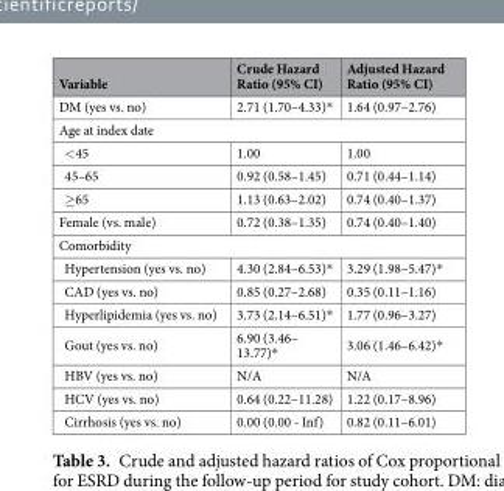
<table><thead><tr><td>Variable</td><td>Crude Hazard Ratio (95% CI)</td><td>Adjusted Hazard Ratio (95% CI)</td></tr></thead><tbody><tr><td>DM (yes vs. no)</td><td>2.71 (1.70–4.33)*</td><td>1.64 (0.97–2.76)</td></tr><tr><td colspan="3">Age at index date</td></tr><tr><td>&lt;45</td><td>1.00</td><td>1.00</td></tr><tr><td>45–65</td><td>0.92 (0.58–1.45)</td><td>0.71 (0.44–1.14)</td></tr><tr><td>≥65</td><td>1.13 (0.63–2.02)</td><td>0.74 (0.40–1.37)</td></tr><tr><td>Female (vs. male)</td><td>0.72 (0.38–1.35)</td><td>0.74 (0.40–1.40)</td></tr><tr><td colspan="3">Comorbidity</td></tr><tr><td>Hypertension (yes vs. no)</td><td>4.30 (2.84–6.53)*</td><td>3.29 (1.98–5.47)*</td></tr><tr><td>CAD (yes vs. no)</td><td>0.85 (0.27–2.68)</td><td>0.35 (0.11–1.16)</td></tr><tr><td>Hyperlipidemia (yes vs. no)</td><td>3.73 (2.14–6.51)*</td><td>1.77 (0.96–3.27)</td></tr><tr><td>Gout (yes vs. no)</td><td>6.90 (3.46– 13.77)*</td><td>3.06 (1.46–6.42)*</td></tr><tr><td>HBV (yes vs. no)</td><td>N/A</td><td>N/A</td></tr><tr><td>HCV (yes vs. no)</td><td>0.64 (0.22–11.28)</td><td>1.22 (0.17–8.96)</td></tr><tr><td>Cirrhosis (yes vs. no)</td><td>0.00 (0.00 - Inf)</td><td>0.82 (0.11–6.01)</td></tr></tbody></table>